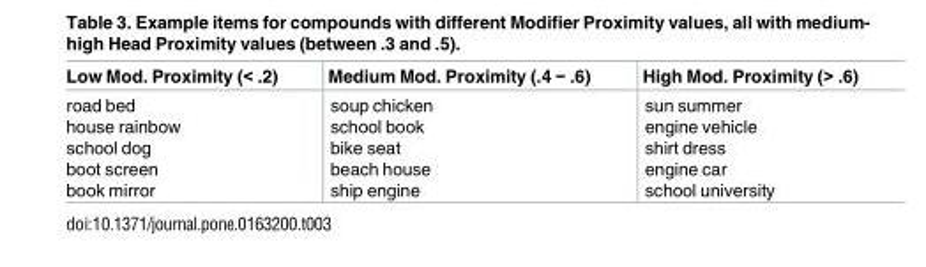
<table><thead><tr><td>Low Mod. Proximity (&lt; .2)</td><td>Medium Mod. Proximity (.4 − .6)</td><td>High Mod. Proximity (&gt; .6)</td></tr></thead><tbody><tr><td>road bed house rainbow school dog boot screen book mirror</td><td>soup chicken school book bike seat beach house ship engine</td><td>sun summer engine vehicle shirt dress engine car school university</td></tr></tbody></table>